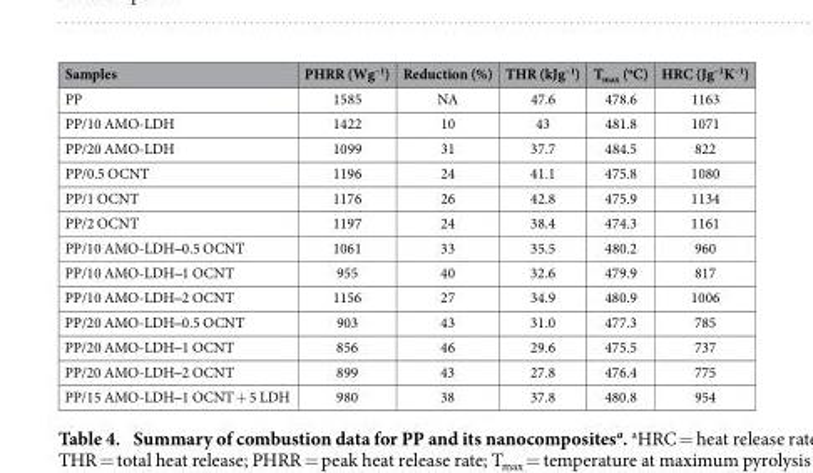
<table><thead><tr><td>Samples</td><td>PHRR (Wg<sup>–1</sup>)</td><td>Reduction (%)</td><td>THR (kJg<sup>–1</sup>)</td><td>T<sub>max</sub> (<sup>o</sup>C)</td><td>HRC (Jg<sup>–1</sup>K<sup>–1</sup>)</td></tr></thead><tbody><tr><td>PP</td><td>1585</td><td>NA</td><td>47.6</td><td>478.6</td><td>1163</td></tr><tr><td>PP/10 AMO-LDH</td><td>1422</td><td>10</td><td>43</td><td>481.8</td><td>1071</td></tr><tr><td>PP/20 AMO-LDH</td><td>1099</td><td>31</td><td>37.7</td><td>484.5</td><td>822</td></tr><tr><td>PP/0.5 OCNT</td><td>1196</td><td>24</td><td>41.1</td><td>475.8</td><td>1080</td></tr><tr><td>PP/1 OCNT</td><td>1176</td><td>26</td><td>42.8</td><td>475.9</td><td>1134</td></tr><tr><td>PP/2 OCNT</td><td>1197</td><td>24</td><td>38.4</td><td>474.3</td><td>1161</td></tr><tr><td>PP/10 AMO-LDH‒ 0.5 OCNT</td><td>1061</td><td>33</td><td>35.5</td><td>480.2</td><td>960</td></tr><tr><td>PP/10 AMO-LDH‒ 1 OCNT</td><td>955</td><td>40</td><td>32.6</td><td>479.9</td><td>817</td></tr><tr><td>PP/10 AMO-LDH‒ 2 OCNT</td><td>1156</td><td>27</td><td>34.9</td><td>480.9</td><td>1006</td></tr><tr><td>PP/20 AMO-LDH‒ 0.5 OCNT</td><td>903</td><td>43</td><td>31.0</td><td>477.3</td><td>785</td></tr><tr><td>PP/20 AMO-LDH‒ 1 OCNT</td><td>856</td><td>46</td><td>29.6</td><td>475.5</td><td>737</td></tr><tr><td>PP/20 AMO-LDH‒ 2 OCNT</td><td>899</td><td>43</td><td>27.8</td><td>476.4</td><td>775</td></tr><tr><td>PP/15 AMO-LDH‒ 1 OCNT + 5 LDH</td><td>980</td><td>38</td><td>37.8</td><td>480.8</td><td>954</td></tr></tbody></table>